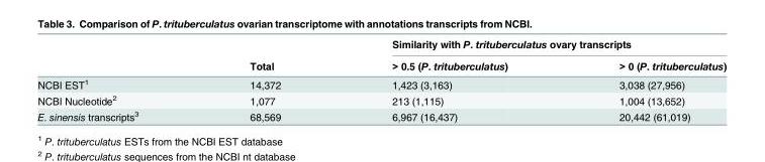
<table><thead><tr><td rowspan="2"></td><td rowspan="2">Total</td><td colspan="2">Similarity with P. trituberculatus ovary transcripts</td></tr><tr><td>&gt; 0.5 (P. trituberculatus)</td><td>&gt; 0 (P. trituberculatus)</td></tr></thead><tbody><tr><td>NCBI EST<sup>1</sup></td><td>14,372</td><td>1,423 (3,163)</td><td>3,038 (27,956)</td></tr><tr><td>NCBI Nucleotide<sup>2</sup></td><td>1,077</td><td>213 (1,115)</td><td>1,004 (13,652)</td></tr><tr><td>E. sinensis transcripts<sup>3</sup></td><td>68,569</td><td>6,967 (16,437)</td><td>20,442 (61,019)</td></tr></tbody></table>